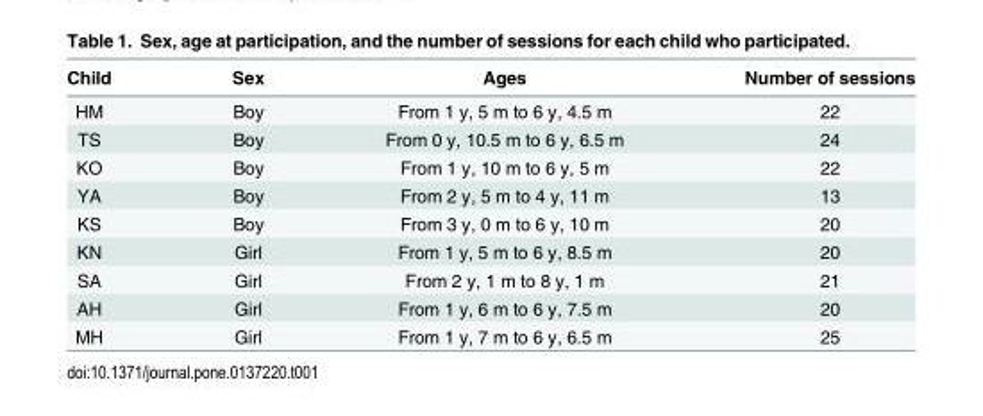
<table><thead><tr><td>Child</td><td>Sex</td><td>Ages</td><td>Number of sessions</td></tr></thead><tbody><tr><td>HM</td><td>Boy</td><td>From 1 y, 5 m to 6 y, 4.5 m</td><td>22</td></tr><tr><td>TS</td><td>Boy</td><td>From 0 y, 10.5 m to 6 y, 6.5 m</td><td>24</td></tr><tr><td>KO</td><td>Boy</td><td>From 1 y, 10 m to 6 y, 5 m</td><td>22</td></tr><tr><td>YA</td><td>Boy</td><td>From 2 y, 5 m to 4 y, 11 m</td><td>13</td></tr><tr><td>KS</td><td>Boy</td><td>From 3 y, 0 m to 6 y, 10 m</td><td>20</td></tr><tr><td>KN</td><td>Girl</td><td>From 1 y, 5 m to 6 y, 8.5 m</td><td>20</td></tr><tr><td>SA</td><td>Girl</td><td>From 2 y, 1 m to 8 y, 1 m</td><td>21</td></tr><tr><td>AH</td><td>Girl</td><td>From 1 y, 6 m to 6 y, 7.5 m</td><td>20</td></tr><tr><td>MH</td><td>Girl</td><td>From 1 y, 7 m to 6 y, 6.5 m</td><td>25</td></tr></tbody></table>